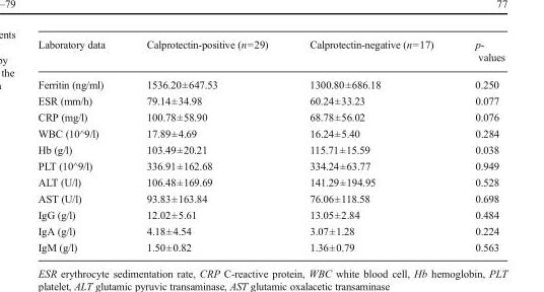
<table><thead><tr><td>Laboratory data</td><td>Calprotectin-positive (n=29)</td><td>Calprotectin-negative (n=17)</td><td>p- values</td></tr></thead><tbody><tr><td>Ferritin (ng/ml)</td><td>1536.20±647.53</td><td>1300.80±686.18</td><td>0.250</td></tr><tr><td>ESR (mm/h)</td><td>79.14±34.98</td><td>60.24±33.23</td><td>0.077</td></tr><tr><td>CRP (mg/l)</td><td>100.78±58.90</td><td>68.78±56.02</td><td>0.076</td></tr><tr><td>WBC (10^9/l)</td><td>17.89±4.69</td><td>16.24±5.40</td><td>0.284</td></tr><tr><td>Hb (g/l)</td><td>103.49±20.21</td><td>115.71±15.59</td><td>0.038</td></tr><tr><td>PLT (10^9/l)</td><td>336.91±162.68</td><td>334.24±63.77</td><td>0.949</td></tr><tr><td>ALT (U/l)</td><td>106.48±169.69</td><td>141.29±194.95</td><td>0.528</td></tr><tr><td>AST (U/l)</td><td>93.83±163.84</td><td>76.06±118.58</td><td>0.698</td></tr><tr><td>IgG (g/l)</td><td>12.02±5.61</td><td>13.05±2.84</td><td>0.484</td></tr><tr><td>IgA (g/l)</td><td>4.18±4.54</td><td>3.07±1.28</td><td>0.224</td></tr><tr><td>IgM (g/l)</td><td>1.50±0.82</td><td>1.36±0.79</td><td>0.563</td></tr></tbody></table>